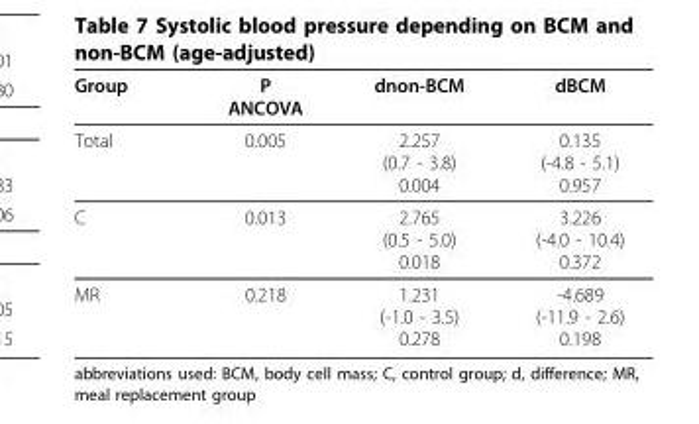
<table><thead><tr><td>Group</td><td>P ANCOVA</td><td>dnon-BCM</td><td>dBCM</td></tr></thead><tbody><tr><td>Total</td><td>0.005</td><td>2.257 (0.7 - 3.8) 0.004</td><td>0.135 (-4.8 - 5.1) 0.957</td></tr><tr><td>C</td><td>0.013</td><td>2.765 (0.5 - 5.0) 0.018</td><td>3.226 (-4.0 - 10.4) 0.372</td></tr><tr><td>MR</td><td>0.218</td><td>1.231 (-1.0 - 3.5) 0.278</td><td>-4.689 (-11.9 - 2.6) 0.198</td></tr></tbody></table>